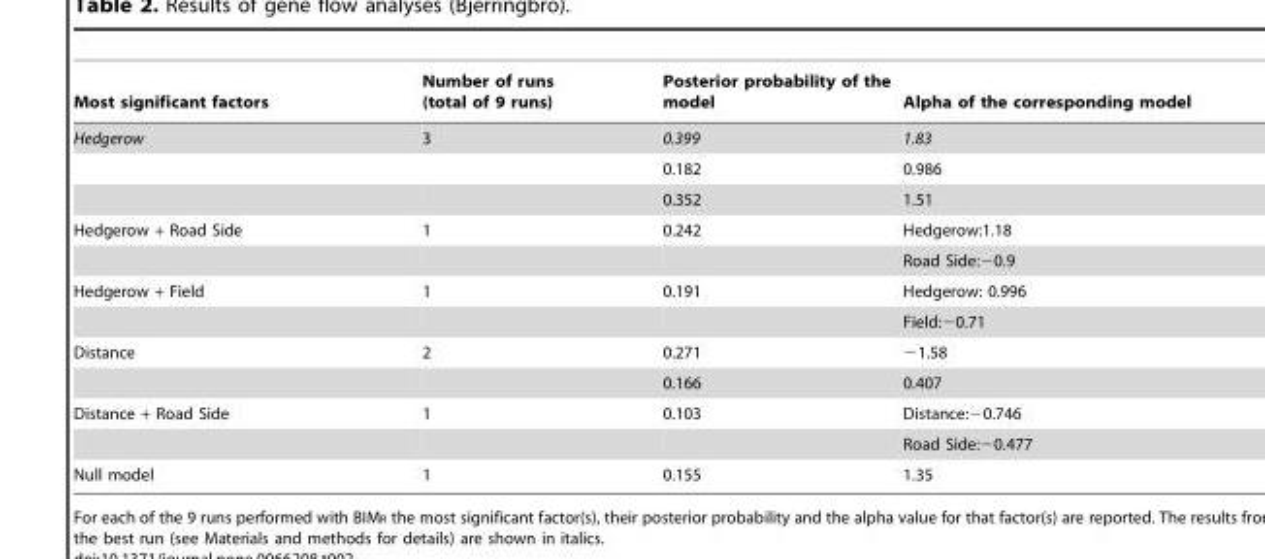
<table><thead><tr><td>Most significant factors</td><td>Number of runs (total of 9 runs)</td><td>Posterior probability of the model</td><td>Alpha of the corresponding model</td></tr></thead><tbody><tr><td rowspan="3">Hedgerow</td><td>3</td><td>0.399</td><td>1.83</td></tr><tr><td></td><td>0.182</td><td>0.986</td></tr><tr><td></td><td>0.352</td><td>1.51</td></tr><tr><td rowspan="2">Hedgerow + Road Side</td><td>1</td><td>0.242</td><td>Hedgerow:1.18</td></tr><tr><td></td><td></td><td>Road Side:−0.9</td></tr><tr><td rowspan="2">Hedgerow + Field</td><td>1</td><td>0.191</td><td>Hedgerow: 0.996</td></tr><tr><td></td><td></td><td>Field:−0.71</td></tr><tr><td rowspan="2">Distance</td><td>2</td><td>0.271</td><td>−1.58</td></tr><tr><td></td><td>0.166</td><td>0.407</td></tr><tr><td rowspan="2">Distance + Road Side</td><td>1</td><td>0.103</td><td>Distance:−0.746</td></tr><tr><td></td><td></td><td>Road Side:−0.477</td></tr><tr><td>Null model</td><td>1</td><td>0.155</td><td>1.35</td></tr></tbody></table>